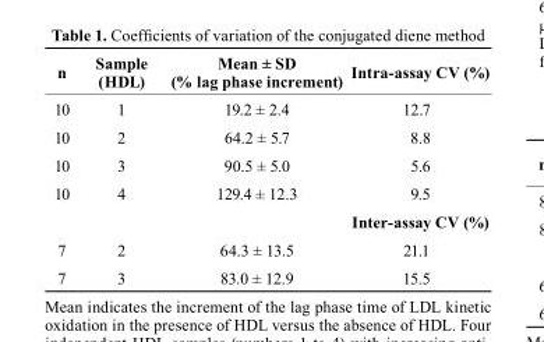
<table><thead><tr><td>n</td><td>sample (HDL)</td><td>Mean ± sD (% lag phase increment)</td><td>Intra-assay cV (%)</td></tr></thead><tbody><tr><td>10</td><td>1</td><td>19.2 ± 2.4</td><td>12.7</td></tr><tr><td>10</td><td>2</td><td>64.2 ± 5.7</td><td>8.8</td></tr><tr><td>10</td><td>3</td><td>90.5 ± 5.0</td><td>5.6</td></tr><tr><td rowspan="2">10</td><td>4</td><td>129.4 ± 12.3</td><td>9.5</td></tr><tr><td></td><td></td><td>Inter-assay cV (%)</td></tr><tr><td>7</td><td>2</td><td>64.3 ± 13.5</td><td>21.1</td></tr><tr><td>7</td><td>3</td><td>83.0 ± 12.9</td><td>15.5</td></tr></tbody></table>